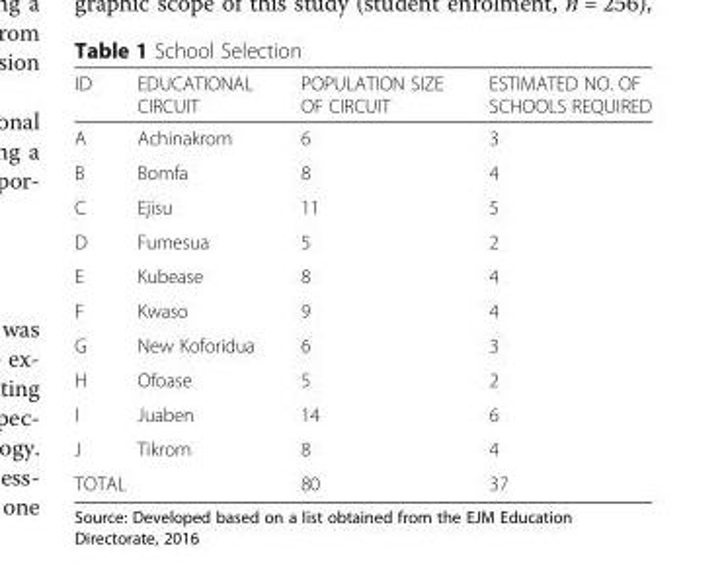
<table><thead><tr><td>ID</td><td>EDUCATIONAL CIRCUIT</td><td>POPULATION SIZE OF CIRCUIT</td><td>ESTIMATED NO. OF SCHOOLS REQUIRED</td></tr></thead><tbody><tr><td>A</td><td>Achinakrom</td><td>6</td><td>3</td></tr><tr><td>B</td><td>Bomfa</td><td>8</td><td>4</td></tr><tr><td>C</td><td>Ejisu</td><td>11</td><td>5</td></tr><tr><td>D</td><td>Fumesua</td><td>5</td><td>2</td></tr><tr><td>E</td><td>Kubease</td><td>8</td><td>4</td></tr><tr><td>F</td><td>Kwaso</td><td>9</td><td>4</td></tr><tr><td>G</td><td>New Koforidua</td><td>6</td><td>3</td></tr><tr><td>H</td><td>Ofoase</td><td>5</td><td>2</td></tr><tr><td>I</td><td>Juaben</td><td>14</td><td>6</td></tr><tr><td>J</td><td>Tikrom</td><td>8</td><td>4</td></tr><tr><td colspan="2">TOTAL</td><td>80</td><td>37</td></tr></tbody></table>